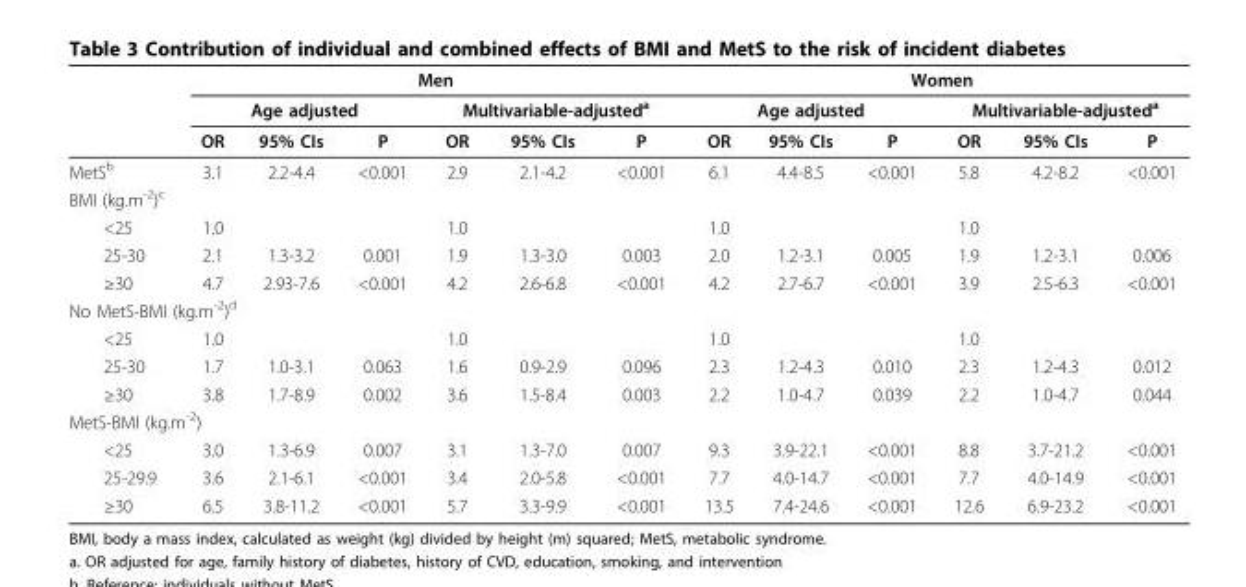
<table><thead><tr><td rowspan="3"></td><td colspan="6">Men</td><td colspan="6">Women</td></tr><tr><td colspan="3">Age adjusted</td><td colspan="3">Multivariable-adjusted<sup>a</sup></td><td colspan="3">Age adjusted</td><td colspan="3">Multivariable-adjusted<sup>a</sup></td></tr><tr><td>OR</td><td>95% CIs</td><td>P</td><td>OR</td><td>95% CIs</td><td>P</td><td>OR</td><td>95% CIs</td><td>P</td><td>OR</td><td>95% CIs</td><td>P</td></tr></thead><tbody><tr><td>MetS<sup>b</sup></td><td>3.1</td><td>2.2-4.4</td><td>&lt;0.001</td><td>2.9</td><td>2.1-4.2</td><td>&lt;0.001</td><td>6.1</td><td>4.4-8.5</td><td>&lt;0.001</td><td>5.8</td><td>4.2-8.2</td><td>&lt;0.001</td></tr><tr><td colspan="13">BMI (kg.m<sup>-2</sup>)<sup>c</sup></td></tr><tr><td>&lt;25</td><td>1.0</td><td></td><td></td><td>1.0</td><td></td><td></td><td>1.0</td><td></td><td></td><td>1.0</td><td></td><td></td></tr><tr><td>25-30</td><td>2.1</td><td>1.3-3.2</td><td>0.001</td><td>1.9</td><td>1.3-3.0</td><td>0.003</td><td>2.0</td><td>1.2-3.1</td><td>0.005</td><td>1.9</td><td>1.2-3.1</td><td>0.006</td></tr><tr><td>≥30</td><td>4.7</td><td>2.93-7.6</td><td>&lt;0.001</td><td>4.2</td><td>2.6-6.8</td><td>&lt;0.001</td><td>4.2</td><td>2.7-6.7</td><td>&lt;0.001</td><td>3.9</td><td>2.5-6.3</td><td>&lt;0.001</td></tr><tr><td colspan="13">No MetS-BMI (kg.m<sup>-2</sup>)<sup>d</sup></td></tr><tr><td>&lt;25</td><td>1.0</td><td></td><td></td><td>1.0</td><td></td><td></td><td>1.0</td><td></td><td></td><td>1.0</td><td></td><td></td></tr><tr><td>25-30</td><td>1.7</td><td>1.0-3.1</td><td>0.063</td><td>1.6</td><td>0.9-2.9</td><td>0.096</td><td>2.3</td><td>1.2-4.3</td><td>0.010</td><td>2.3</td><td>1.2-4.3</td><td>0.012</td></tr><tr><td>≥30</td><td>3.8</td><td>1.7-8.9</td><td>0.002</td><td>3.6</td><td>1.5-8.4</td><td>0.003</td><td>2.2</td><td>1.0-4.7</td><td>0.039</td><td>2.2</td><td>1.0-4.7</td><td>0.044</td></tr><tr><td colspan="13">MetS-BMI (kg.m<sup>-2</sup>)</td></tr><tr><td>&lt;25</td><td>3.0</td><td>1.3-6.9</td><td>0.007</td><td>3.1</td><td>1.3-7.0</td><td>0.007</td><td>9.3</td><td>3.9-22.1</td><td>&lt;0.001</td><td>8.8</td><td>3.7-21.2</td><td>&lt;0.001</td></tr><tr><td>25-29.9</td><td>3.6</td><td>2.1-6.1</td><td>&lt;0.001</td><td>3.4</td><td>2.0-5.8</td><td>&lt;0.001</td><td>7.7</td><td>4.0-14.7</td><td>&lt;0.001</td><td>7.7</td><td>4.0-14.9</td><td>&lt;0.001</td></tr><tr><td>≥30</td><td>6.5</td><td>3.8-11.2</td><td>&lt;0.001</td><td>5.7</td><td>3.3-9.9</td><td>&lt;0.001</td><td>13.5</td><td>7.4-24.6</td><td>&lt;0.001</td><td>12.6</td><td>6.9-23.2</td><td>&lt;0.001</td></tr></tbody></table>